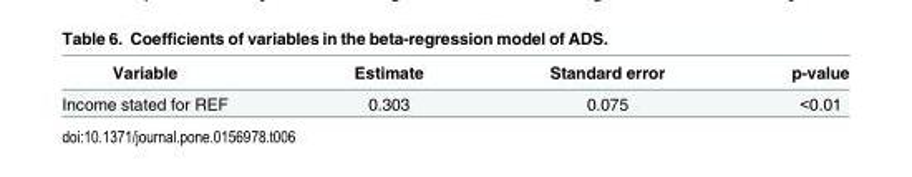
<table><thead><tr><td>Variable</td><td>Estimate</td><td>Standard error</td><td>p-value</td></tr></thead><tbody><tr><td>Income stated for REF</td><td>0.303</td><td>0.075</td><td>&lt;0.01</td></tr></tbody></table>